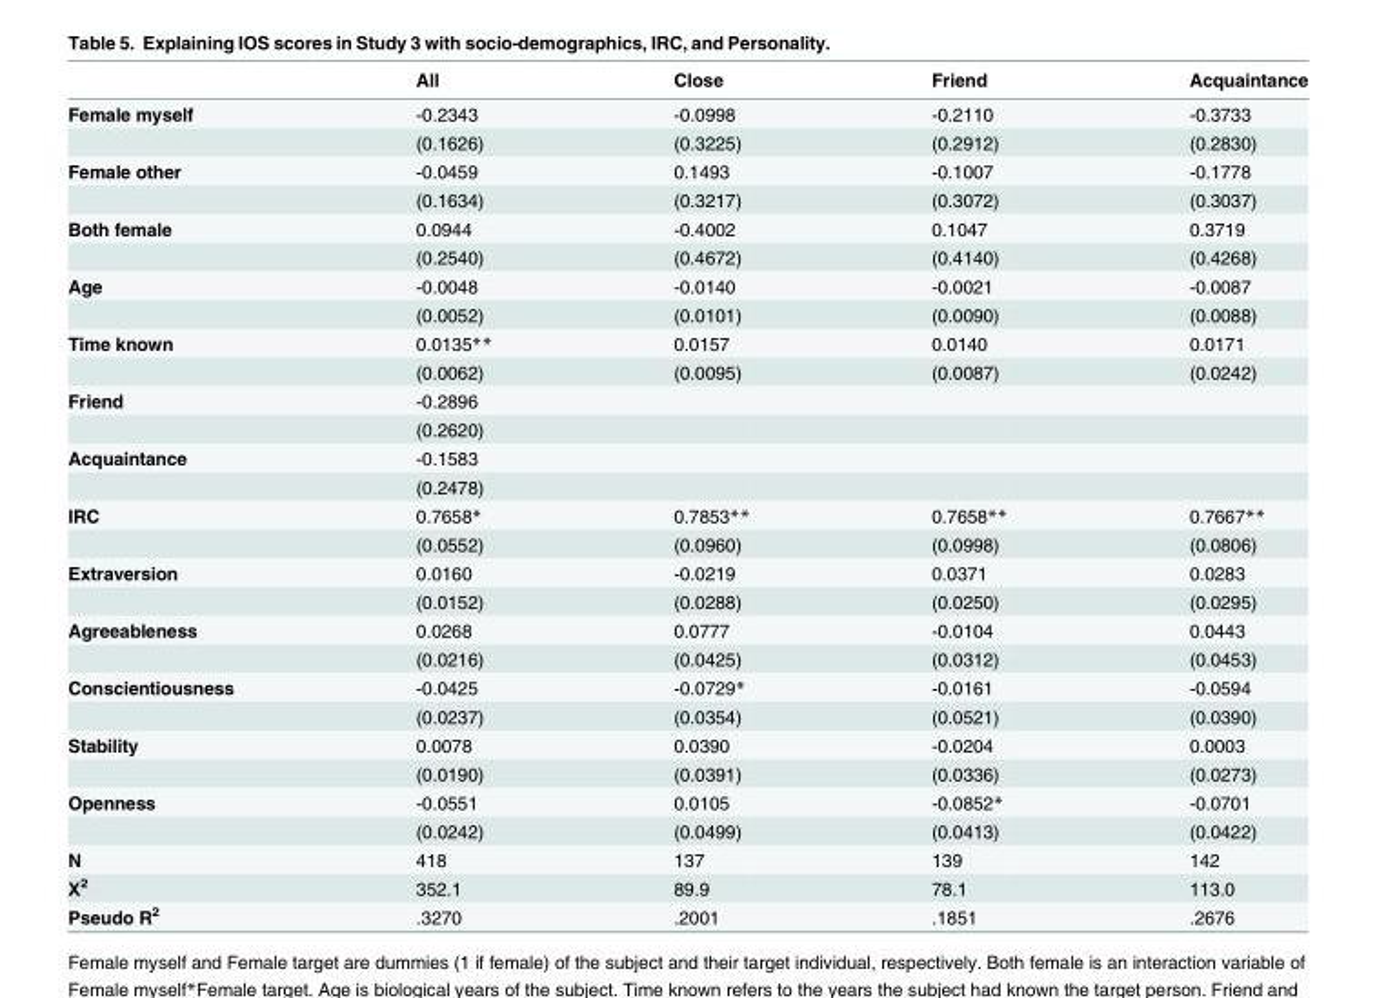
<table><thead><tr><td></td><td>All</td><td>Close</td><td>Friend</td><td>Acquaintance</td></tr></thead><tbody><tr><td rowspan="2">Female myself</td><td>-0.2343</td><td>-0.0998</td><td>-0.2110</td><td>-0.3733</td></tr><tr><td>(0.1626)</td><td>(0.3225)</td><td>(0.2912)</td><td>(0.2830)</td></tr><tr><td rowspan="2">Female other</td><td>-0.0459</td><td>0.1493</td><td>-0.1007</td><td>-0.1778</td></tr><tr><td>(0.1634)</td><td>(0.3217)</td><td>(0.3072)</td><td>(0.3037)</td></tr><tr><td rowspan="2">Both female</td><td>0.0944</td><td>-0.4002</td><td>0.1047</td><td>0.3719</td></tr><tr><td>(0.2540)</td><td>(0.4672)</td><td>(0.4140)</td><td>(0.4268)</td></tr><tr><td rowspan="2">Age</td><td>-0.0048</td><td>-0.0140</td><td>-0.0021</td><td>-0.0087</td></tr><tr><td>(0.0052)</td><td>(0.0101)</td><td>(0.0090)</td><td>(0.0088)</td></tr><tr><td rowspan="2">Time known</td><td>0.0135**</td><td>0.0157</td><td>0.0140</td><td>0.0171</td></tr><tr><td>(0.0062)</td><td>(0.0095)</td><td>(0.0087)</td><td>(0.0242)</td></tr><tr><td rowspan="2">Friend</td><td>-0.2896</td><td></td><td></td><td></td></tr><tr><td>(0.2620)</td><td></td><td></td><td></td></tr><tr><td rowspan="2">Acquaintance</td><td>-0.1583</td><td></td><td></td><td></td></tr><tr><td>(0.2478)</td><td></td><td></td><td></td></tr><tr><td rowspan="2">IRC</td><td>0.7658*</td><td>0.7853**</td><td>0.7658**</td><td>0.7667**</td></tr><tr><td>(0.0552)</td><td>(0.0960)</td><td>(0.0998)</td><td>(0.0806)</td></tr><tr><td rowspan="2">Extraversion</td><td>0.0160</td><td>-0.0219</td><td>0.0371</td><td>0.0283</td></tr><tr><td>(0.0152)</td><td>(0.0288)</td><td>(0.0250)</td><td>(0.0295)</td></tr><tr><td rowspan="2">Agreeableness</td><td>0.0268</td><td>0.0777</td><td>-0.0104</td><td>0.0443</td></tr><tr><td>(0.0216)</td><td>(0.0425)</td><td>(0.0312)</td><td>(0.0453)</td></tr><tr><td rowspan="2">Conscientiousness</td><td>-0.0425</td><td>-0.0729*</td><td>-0.0161</td><td>-0.0594</td></tr><tr><td>(0.0237)</td><td>(0.0354)</td><td>(0.0521)</td><td>(0.0390)</td></tr><tr><td rowspan="2">Stability</td><td>0.0078</td><td>0.0390</td><td>-0.0204</td><td>0.0003</td></tr><tr><td>(0.0190)</td><td>(0.0391)</td><td>(0.0336)</td><td>(0.0273)</td></tr><tr><td rowspan="2">Openness</td><td>-0.0551</td><td>0.0105</td><td>-0.0852*</td><td>-0.0701</td></tr><tr><td>(0.0242)</td><td>(0.0499)</td><td>(0.0413)</td><td>(0.0422)</td></tr><tr><td>N</td><td>418</td><td>137</td><td>139</td><td>142</td></tr><tr><td>Χ<sup>2</sup></td><td>352.1</td><td>89.9</td><td>78.1</td><td>113.0</td></tr><tr><td>Pseudo R<sup>2</sup></td><td>.3270</td><td>.2001</td><td>.1851</td><td>.2676</td></tr></tbody></table>